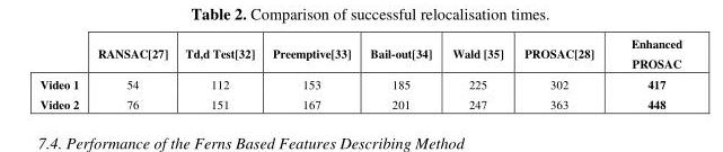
<table><thead><tr><td></td><td>RANSAC[27]</td><td>Td,d Test[32]</td><td>Preemptive[33]</td><td>Bail-out[34]</td><td>Wald [35]</td><td>PROSAC[28]</td><td>Enhanced PROSAC</td></tr></thead><tbody><tr><td>Video 1</td><td>54</td><td>112</td><td>153</td><td>185</td><td>225</td><td>302</td><td>417</td></tr><tr><td>Video 2</td><td>76</td><td>151</td><td>167</td><td>201</td><td>247</td><td>363</td><td>448</td></tr></tbody></table>